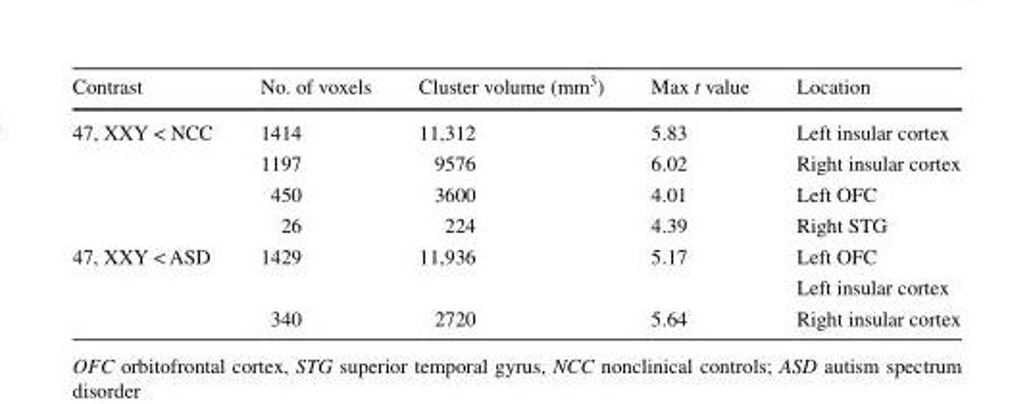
<table><thead><tr><td>Contrast</td><td>No. of voxels</td><td>Cluster volume (mm<sup>3</sup>)</td><td>Max t value</td><td>Location</td></tr></thead><tbody><tr><td rowspan="4">47, XXY &lt; NCC</td><td>1414</td><td>11,312</td><td>5.83</td><td>Left insular cortex</td></tr><tr><td>1197</td><td>9576</td><td>6.02</td><td>Right insular cortex</td></tr><tr><td>450</td><td>3600</td><td>4.01</td><td>Left OFC</td></tr><tr><td>26</td><td>224</td><td>4.39</td><td>Right STG</td></tr><tr><td rowspan="3">47, XXY &lt; ASD</td><td>1429</td><td>11,936</td><td>5.17</td><td>Left OFC</td></tr><tr><td></td><td></td><td></td><td>Left insular cortex</td></tr><tr><td>340</td><td>2720</td><td>5.64</td><td>Right insular cortex</td></tr></tbody></table>